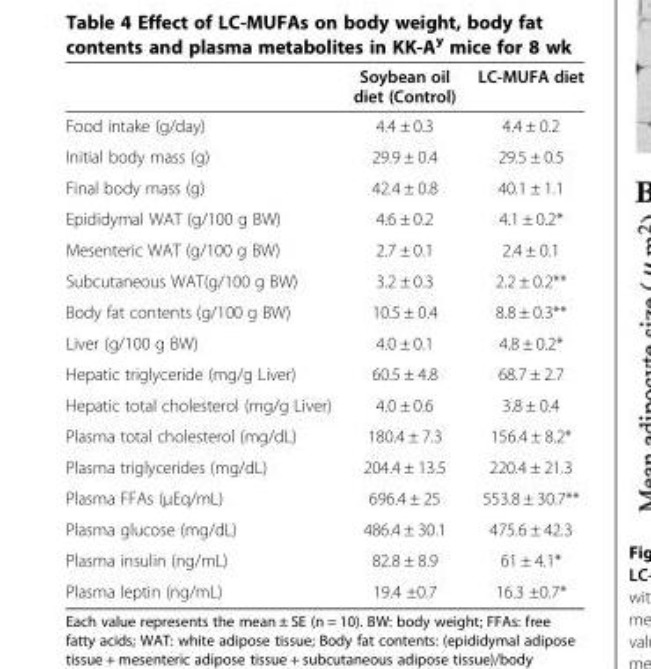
<table><thead><tr><td></td><td>Soybean oil diet (Control)</td><td>LC-MUFA diet</td></tr></thead><tbody><tr><td>Food intake (g/day)</td><td>4.4 ± 0.3</td><td>4.4 ± 0.2</td></tr><tr><td>Initial body mass (g)</td><td>29.9 ± 0.4</td><td>29.5 ± 0.5</td></tr><tr><td>Final body mass (g)</td><td>42.4 ± 0.8</td><td>40.1 ± 1.1</td></tr><tr><td>Epididymal WAT (g/100 g BW)</td><td>4.6 ± 0.2</td><td>4.1 ± 0.2*</td></tr><tr><td>Mesenteric WAT (g/100 g BW)</td><td>2.7 ± 0.1</td><td>2.4 ± 0.1</td></tr><tr><td>Subcutaneous WAT(g/100 g BW)</td><td>3.2 ± 0.3</td><td>2.2 ± 0.2**</td></tr><tr><td>Body fat contents (g/100 g BW)</td><td>10.5 ± 0.4</td><td>8.8 ± 0.3**</td></tr><tr><td>Liver (g/100 g BW)</td><td>4.0 ± 0.1</td><td>4.8 ± 0.2*</td></tr><tr><td>Hepatic triglyceride (mg/g Liver)</td><td>60.5 ± 4.8</td><td>68.7 ± 2.7</td></tr><tr><td>Hepatic total cholesterol (mg/g Liver)</td><td>4.0 ± 0.6</td><td>3.8 ± 0.4</td></tr><tr><td>Plasma total cholesterol (mg/dL)</td><td>180.4 ± 7.3</td><td>156.4 ± 8.2*</td></tr><tr><td>Plasma triglycerides (mg/dL)</td><td>204.4 ± 13.5</td><td>220.4 ± 21.3</td></tr><tr><td>Plasma FFAs (μEq/mL)</td><td>696.4 ± 25</td><td>553.8 ± 30.7**</td></tr><tr><td>Plasma glucose (mg/dL)</td><td>486.4 ± 30.1</td><td>475.6 ± 42.3</td></tr><tr><td>Plasma insulin (ng/mL)</td><td>82.8 ± 8.9</td><td>61 ± 4.1*</td></tr><tr><td>Plasma leptin (ng/mL)</td><td>19.4 ±0.7</td><td>16.3 ±0.7*</td></tr></tbody></table>